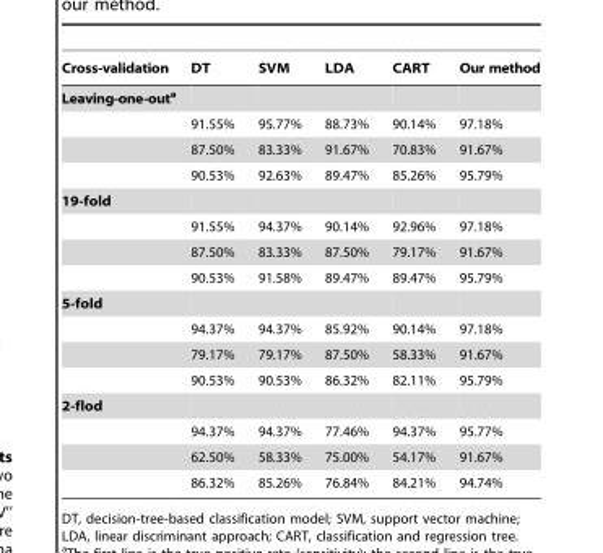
<table><thead><tr><td>Cross-validation</td><td>DT</td><td>SVM</td><td>LDA</td><td>CART</td><td>Our method</td></tr></thead><tbody><tr><td colspan="6">Leaving-one-outa</td></tr><tr><td></td><td>91.55%</td><td>95.77%</td><td>88.73%</td><td>90.14%</td><td>97.18%</td></tr><tr><td></td><td>87.50%</td><td>83.33%</td><td>91.67%</td><td>70.83%</td><td>91.67%</td></tr><tr><td></td><td>90.53%</td><td>92.63%</td><td>89.47%</td><td>85.26%</td><td>95.79%</td></tr><tr><td colspan="6">19-fold</td></tr><tr><td></td><td>91.55%</td><td>94.37%</td><td>90.14%</td><td>92.96%</td><td>97.18%</td></tr><tr><td></td><td>87.50%</td><td>83.33%</td><td>87.50%</td><td>79.17%</td><td>91.67%</td></tr><tr><td></td><td>90.53%</td><td>91.58%</td><td>89.47%</td><td>89.47%</td><td>95.79%</td></tr><tr><td colspan="6">5-fold</td></tr><tr><td></td><td>94.37%</td><td>94.37%</td><td>85.92%</td><td>90.14%</td><td>97.18%</td></tr><tr><td></td><td>79.17%</td><td>79.17%</td><td>87.50%</td><td>58.33%</td><td>91.67%</td></tr><tr><td></td><td>90.53%</td><td>90.53%</td><td>86.32%</td><td>82.11%</td><td>95.79%</td></tr><tr><td colspan="6">2-flod</td></tr><tr><td></td><td>94.37%</td><td>94.37%</td><td>77.46%</td><td>94.37%</td><td>95.77%</td></tr><tr><td></td><td>62.50%</td><td>58.33%</td><td>75.00%</td><td>54.17%</td><td>91.67%</td></tr><tr><td></td><td>86.32%</td><td>85.26%</td><td>76.84%</td><td>84.21%</td><td>94.74%</td></tr></tbody></table>